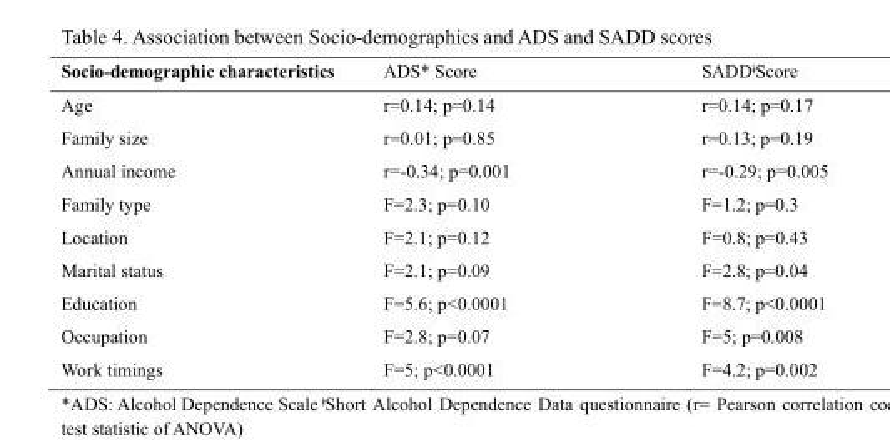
<table><thead><tr><td>Socio-demographic characteristics</td><td>ADS* Score</td><td>SADDǂScore</td></tr></thead><tbody><tr><td>Age</td><td>r=0.14; p=0.14</td><td>r=0.14; p=0.17</td></tr><tr><td>Family size</td><td>r=0.01; p=0.85</td><td>r=0.13; p=0.19</td></tr><tr><td>Annual income</td><td>r=-0.34; p=0.001</td><td>r=-0.29; p=0.005</td></tr><tr><td>Family type</td><td>F=2.3; p=0.10</td><td>F=1.2; p=0.3</td></tr><tr><td>Location</td><td>F=2.1; p=0.12</td><td>F=0.8; p=0.43</td></tr><tr><td>Marital status</td><td>F=2.1; p=0.09</td><td>F=2.8; p=0.04</td></tr><tr><td>Education</td><td>F=5.6; p&lt;0.0001</td><td>F=8.7; p&lt;0.0001</td></tr><tr><td>Occupation</td><td>F=2.8; p=0.07</td><td>F=5; p=0.008</td></tr><tr><td>Work timings</td><td>F=5; p&lt;0.0001</td><td>F=4.2; p=0.002</td></tr></tbody></table>